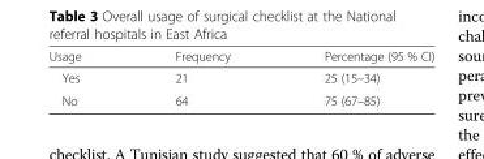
<table><thead><tr><td>Usage</td><td>Frequency</td><td>Percentage (95 % CI)</td></tr></thead><tbody><tr><td>Yes</td><td>21</td><td>25 (15–34)</td></tr><tr><td>No</td><td>64</td><td>75 (67–85)</td></tr></tbody></table>